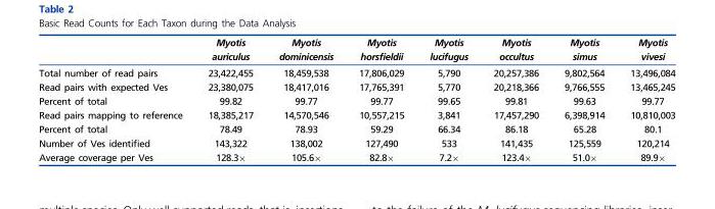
<table><thead><tr><td></td><td>Myotis auriculus</td><td>Myotis dominicensis</td><td>Myotis horsfieldii</td><td>Myotis lucifugus</td><td>Myotis occultus</td><td>Myotis simus</td><td>Myotis vivesi</td></tr></thead><tbody><tr><td>Total number of read pairs</td><td>23,422,455</td><td>18,459,538</td><td>17,806,029</td><td>5,790</td><td>20,257,386</td><td>9,802,564</td><td>13,496,084</td></tr><tr><td>Read pairs with expected Ves</td><td>23,380,075</td><td>18,417,016</td><td>17,765,391</td><td>5,770</td><td>20,218,366</td><td>9,766,555</td><td>13,465,245</td></tr><tr><td>Percent of total</td><td>99.82</td><td>99.77</td><td>99.77</td><td>99.65</td><td>99.81</td><td>99.63</td><td>99.77</td></tr><tr><td>Read pairs mapping to reference</td><td>18,385,217</td><td>14,570,546</td><td>10,557,215</td><td>3,841</td><td>17,457,290</td><td>6,398,914</td><td>10,810,003</td></tr><tr><td>Percent of total</td><td>78.49</td><td>78.93</td><td>59.29</td><td>66.34</td><td>86.18</td><td>65.28</td><td>80.1</td></tr><tr><td>Number of Ves identified</td><td>143,322</td><td>138,002</td><td>127,490</td><td>533</td><td>141,435</td><td>125,559</td><td>120,214</td></tr><tr><td>Average coverage per Ves</td><td>128.3×</td><td>105.6×</td><td>82.8×</td><td>7.2×</td><td>123.4×</td><td>51.0×</td><td>89.9×</td></tr></tbody></table>